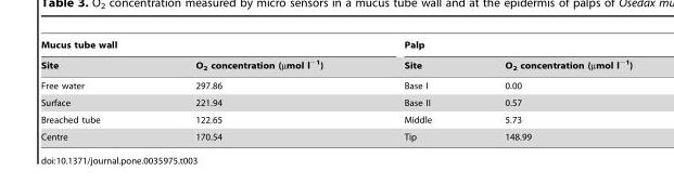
<table><thead><tr><td colspan="2">Mucus tube wall</td><td colspan="2">Palp</td></tr><tr><td>Site</td><td>O<sub>2</sub> concentration (µmol l<sup>−1</sup>)</td><td>Site</td><td>O<sub>2</sub> concentration (µmol l<sup>−1</sup>)</td></tr></thead><tbody><tr><td>Free water</td><td>297.86</td><td>Base I</td><td>0.00</td></tr><tr><td>Surface</td><td>221.94</td><td>Base II</td><td>0.57</td></tr><tr><td>Breached tube</td><td>122.65</td><td>Middle</td><td>5.73</td></tr><tr><td>Centre</td><td>170.54</td><td>Tip</td><td>148.99</td></tr></tbody></table>